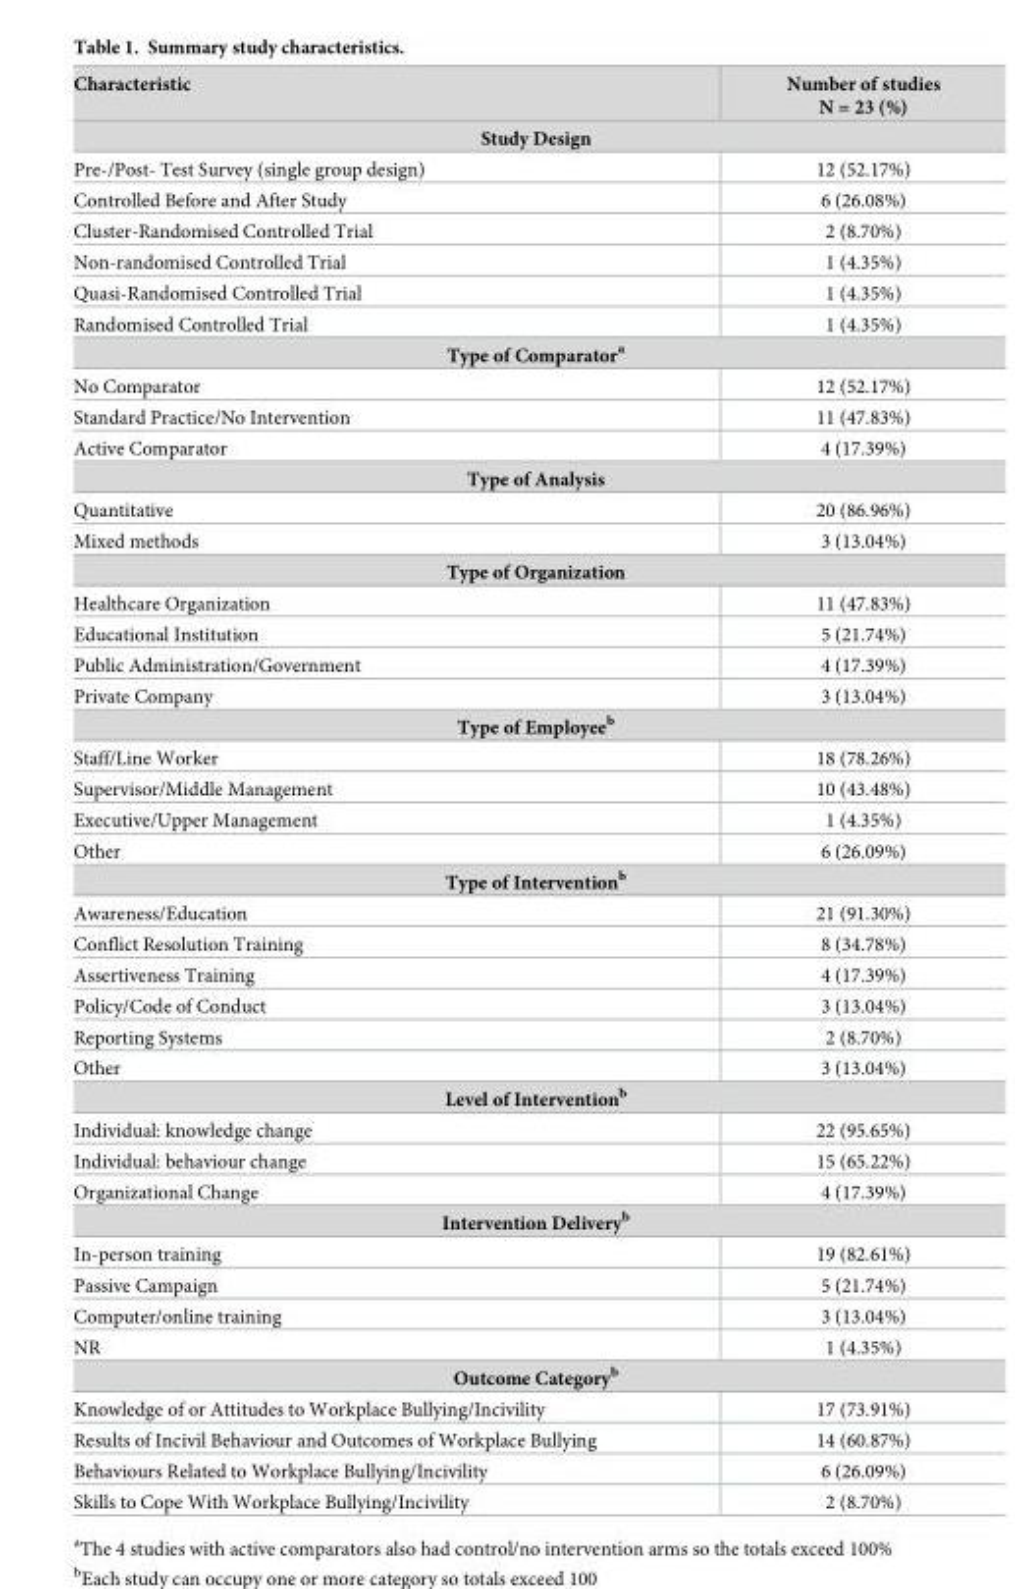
<table><thead><tr><td>Characteristic</td><td>Number of studies N = 23 (%)</td></tr></thead><tbody><tr><td colspan="2">Study Design</td></tr><tr><td>Pre-/Post- Test Survey (single group design)</td><td>12 (52.17%)</td></tr><tr><td>Controlled Before and After Study</td><td>6 (26.08%)</td></tr><tr><td>Cluster-Randomised Controlled Trial</td><td>2 (8.70%)</td></tr><tr><td>Non-randomised Controlled Trial</td><td>1 (4.35%)</td></tr><tr><td>Quasi-Randomised Controlled Trial</td><td>1 (4.35%)</td></tr><tr><td>Randomised Controlled Trial</td><td>1 (4.35%)</td></tr><tr><td colspan="2">Type of Comparator<sup>a</sup></td></tr><tr><td>No Comparator</td><td>12 (52.17%)</td></tr><tr><td>Standard Practice/No Intervention</td><td>11 (47.83%)</td></tr><tr><td>Active Comparator</td><td>4 (17.39%)</td></tr><tr><td colspan="2">Type of Analysis</td></tr><tr><td>Quantitative</td><td>20 (86.96%)</td></tr><tr><td>Mixed methods</td><td>3 (13.04%)</td></tr><tr><td colspan="2">Type of Organization</td></tr><tr><td>Healthcare Organization</td><td>11 (47.83%)</td></tr><tr><td>Educational Institution</td><td>5 (21.74%)</td></tr><tr><td>Public Administration/Government</td><td>4 (17.39%)</td></tr><tr><td>Private Company</td><td>3 (13.04%)</td></tr><tr><td colspan="2">Type of Employee<sup>b</sup></td></tr><tr><td>Staff/Line Worker</td><td>18 (78.26%)</td></tr><tr><td>Supervisor/Middle Management</td><td>10 (43.48%)</td></tr><tr><td>Executive/Upper Management</td><td>1 (4.35%)</td></tr><tr><td>Other</td><td>6 (26.09%)</td></tr><tr><td colspan="2">Type of Intervention<sup>b</sup></td></tr><tr><td>Awareness/Education</td><td>21 (91.30%)</td></tr><tr><td>Conflict Resolution Training</td><td>8 (34.78%)</td></tr><tr><td>Assertiveness Training</td><td>4 (17.39%)</td></tr><tr><td>Policy/Code of Conduct</td><td>3 (13.04%)</td></tr><tr><td>Reporting Systems</td><td>2 (8.70%)</td></tr><tr><td>Other</td><td>3 (13.04%)</td></tr><tr><td colspan="2">Level of Intervention<sup>b</sup></td></tr><tr><td>Individual: knowledge change</td><td>22 (95.65%)</td></tr><tr><td>Individual: behaviour change</td><td>15 (65.22%)</td></tr><tr><td>Organizational Change</td><td>4 (17.39%)</td></tr><tr><td colspan="2">Intervention Delivery<sup>b</sup></td></tr><tr><td>In-person training</td><td>19 (82.61%)</td></tr><tr><td>Passive Campaign</td><td>5 (21.74%)</td></tr><tr><td>Computer/online training</td><td>3 (13.04%)</td></tr><tr><td>NR</td><td>1 (4.35%)</td></tr><tr><td colspan="2">Outcome Category<sup>b</sup></td></tr><tr><td>Knowledge of or Attitudes to Workplace Bullying/Incivility</td><td>17 (73.91%)</td></tr><tr><td>Results of Incivil Behaviour and Outcomes of Workplace Bullying</td><td>14 (60.87%)</td></tr><tr><td>Behaviours Related to Workplace Bullying/Incivility</td><td>6 (26.09%)</td></tr><tr><td>Skills to Cope With Workplace Bullying/Incivility</td><td>2 (8.70%)</td></tr></tbody></table>